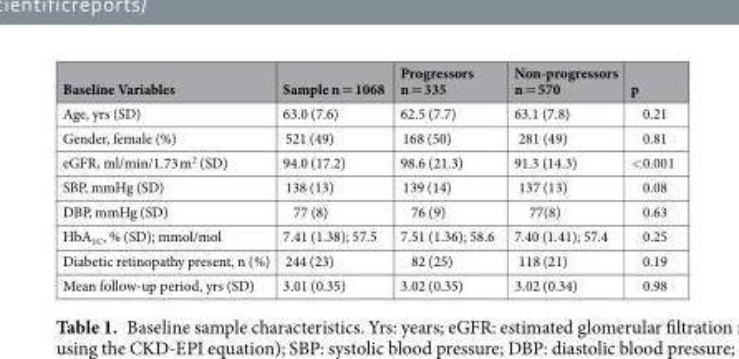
<table><thead><tr><td>Baseline Variables</td><td>Sample n = 1068</td><td>Progressors n = 335</td><td>Non-progressors n = 570</td><td>p</td></tr></thead><tbody><tr><td>Age, yrs (SD)</td><td>63.0 (7.6)</td><td>62.5 (7.7)</td><td>63.1 (7.8)</td><td>0.21</td></tr><tr><td>Gender, female (%)</td><td>521 (49)</td><td>168 (50)</td><td>281 (49)</td><td>0.81</td></tr><tr><td>eGFR, ml/min/1.73 m<sup>2</sup> (SD)</td><td>94.0 (17.2)</td><td>98.6 (21.3)</td><td>91.3 (14.3)</td><td>&lt;0.001</td></tr><tr><td>SBP, mmHg (SD)</td><td>138 (13)</td><td>139 (14)</td><td>137 (13)</td><td>0.08</td></tr><tr><td>DBP, mmHg (SD)</td><td>77 (8)</td><td>76 (9)</td><td>77(8)</td><td>0.63</td></tr><tr><td>HbA<sub>1C</sub>, % (SD); mmol/mol</td><td>7.41 (1.38); 57.5</td><td>7.51 (1.36); 58.6</td><td>7.40 (1.41); 57.4</td><td>0.25</td></tr><tr><td>Diabetic retinopathy present, n (%)</td><td>244 (23)</td><td>82 (25)</td><td>118 (21)</td><td>0.19</td></tr><tr><td>Mean follow-up period, yrs (SD)</td><td>3.01 (0.35)</td><td>3.02 (0.35)</td><td>3.02 (0.34)</td><td>0.98</td></tr></tbody></table>